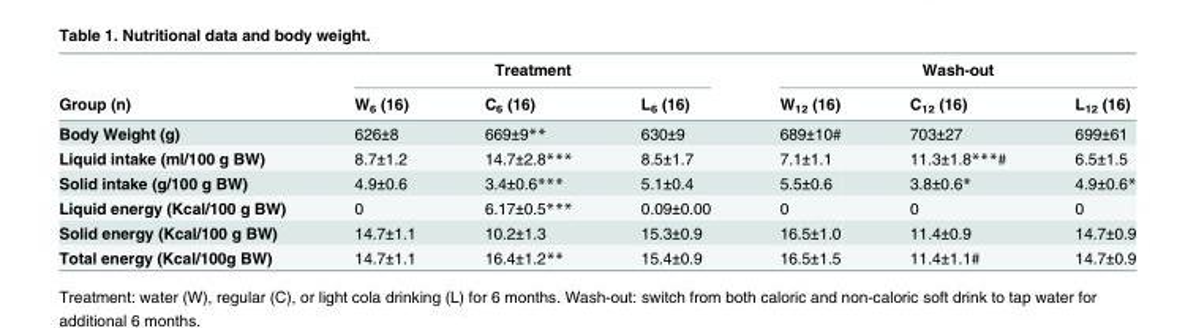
<table><thead><tr><td rowspan="2">Group (n)</td><td colspan="3">Treatment</td><td colspan="3">Wash-out</td></tr><tr><td>W<sub>6</sub> (16)</td><td>C<sub>6</sub> (16)</td><td>L<sub>6</sub> (16)</td><td>W<sub>12</sub> (16)</td><td>C<sub>12</sub> (16)</td><td>L<sub>12</sub> (16)</td></tr></thead><tbody><tr><td>Body Weight (g)</td><td>626±8</td><td>669±9**</td><td>630±9</td><td>689±10#</td><td>703±27</td><td>699±61</td></tr><tr><td>Liquid intake (ml/100 g BW)</td><td>8.7±1.2</td><td>14.7±2.8***</td><td>8.5±1.7</td><td>7.1±1.1</td><td>11.3±1.8***#</td><td>6.5±1.5</td></tr><tr><td>Solid intake (g/100 g BW)</td><td>4.9±0.6</td><td>3.4±0.6***</td><td>5.1±0.4</td><td>5.5±0.6</td><td>3.8±0.6*</td><td>4.9±0.6*</td></tr><tr><td>Liquid energy (Kcal/100 g BW)</td><td>0</td><td>6.17±0.5***</td><td>0.09±0.00</td><td>0</td><td>0</td><td>0</td></tr><tr><td>Solid energy (Kcal/100 g BW)</td><td>14.7±1.1</td><td>10.2±1.3</td><td>15.3±0.9</td><td>16.5±1.0</td><td>11.4±0.9</td><td>14.7±0.9</td></tr><tr><td>Total energy (Kcal/100g BW)</td><td>14.7±1.1</td><td>16.4±1.2**</td><td>15.4±0.9</td><td>16.5±1.5</td><td>11.4±1.1#</td><td>14.7±0.9</td></tr></tbody></table>